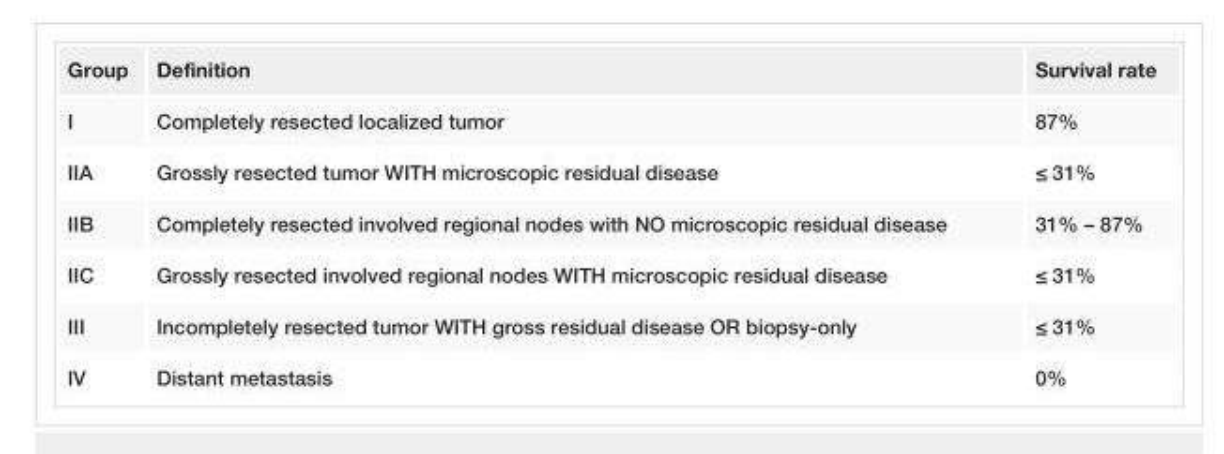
<table><tbody><tr><td>Group</td><td>Definition</td><td>Survival rate</td></tr><tr><td>I</td><td>Completely resected localized tumor</td><td>87%</td></tr><tr><td>IIA</td><td>Grossly resected tumor WITH microscopic residual disease</td><td>≤ 31%</td></tr><tr><td>IIB</td><td>Completely resected involved regional nodes with NO microscopic residual disease</td><td>31% – 87%</td></tr><tr><td>IIC</td><td>Grossly resected involved regional nodes WITH microscopic residual disease</td><td>≤ 31%</td></tr><tr><td>III</td><td>Incompletely resected tumor WITH gross residual disease OR biopsy-only</td><td>≤ 31%</td></tr><tr><td>IV</td><td>Distant metastasis</td><td>0%</td></tr></tbody></table>